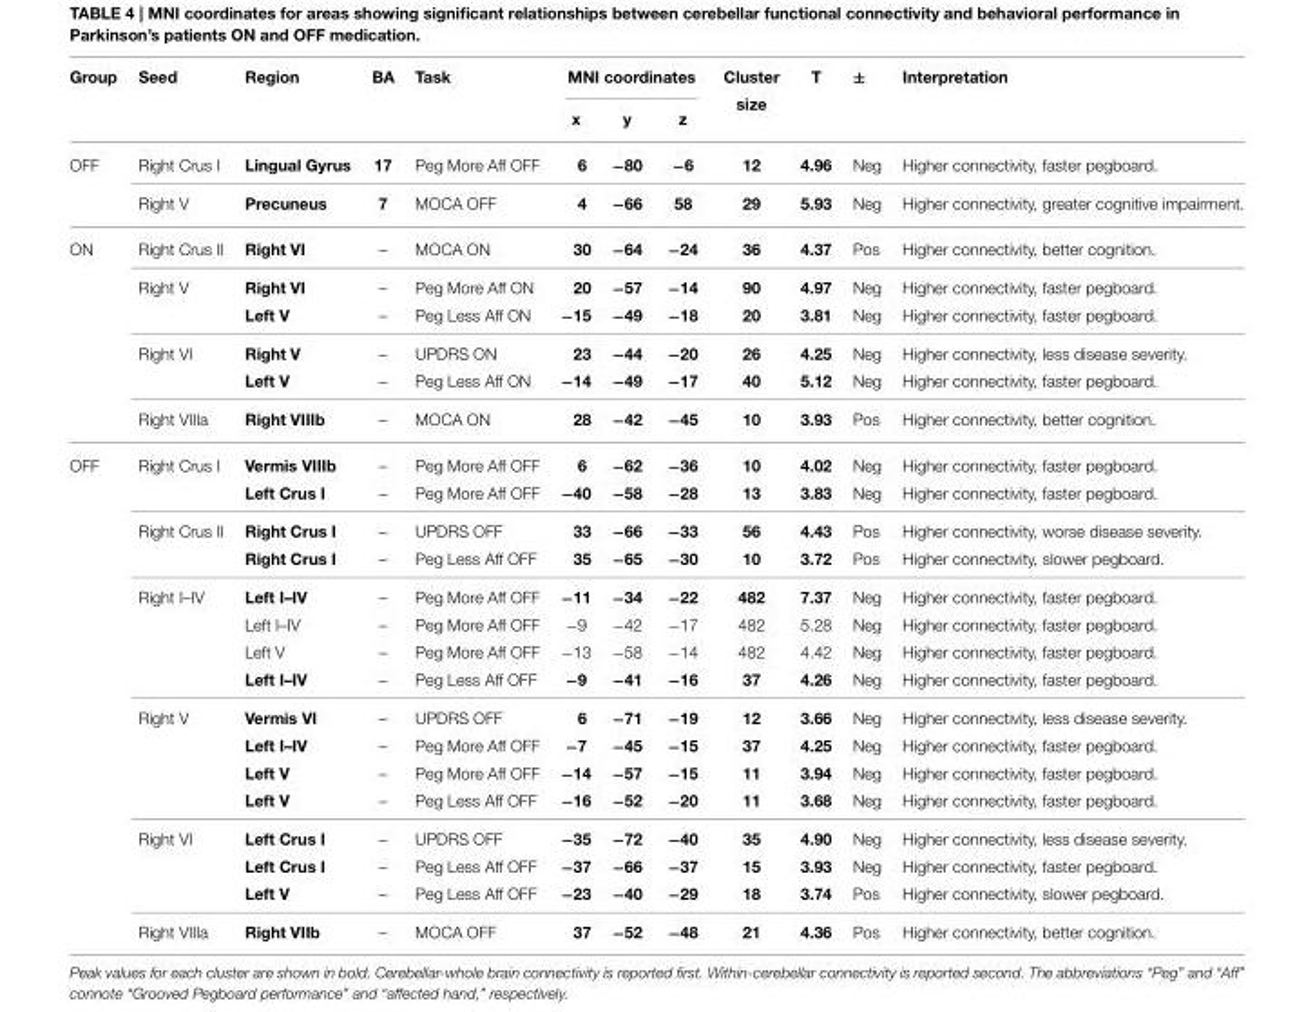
<table><thead><tr><td rowspan="2">Group</td><td rowspan="2">Seed</td><td rowspan="2">Region</td><td rowspan="2">BA</td><td rowspan="2">Task</td><td colspan="3">MNI coordinates</td><td rowspan="2">Cluster size</td><td rowspan="2">T</td><td rowspan="2">±</td><td rowspan="2">Interpretation</td></tr><tr><td>x</td><td>y</td><td>z</td></tr></thead><tbody><tr><td rowspan="2">OFF</td><td>Right Crus I</td><td>Lingual Gyrus</td><td>17</td><td>Peg More Aff OFF</td><td>6</td><td>−80</td><td>−6</td><td>12</td><td>4.96</td><td>Neg</td><td>Higher connectivity, faster pegboard.</td></tr><tr><td>Right V</td><td>Precuneus</td><td>7</td><td>MOCA OFF</td><td>4</td><td>−66</td><td>58</td><td>29</td><td>5.93</td><td>Neg</td><td>Higher connectivity, greater cognitive impairment.</td></tr><tr><td rowspan="6">ON</td><td>Right Crus II</td><td>Right VI</td><td>–</td><td>MOCA ON</td><td>30</td><td>−64</td><td>−24</td><td>36</td><td>4.37</td><td>Pos</td><td>Higher connectivity, better cognition.</td></tr><tr><td>Right V</td><td>Right VI</td><td>–</td><td>Peg More Aff ON</td><td>20</td><td>−57</td><td>−14</td><td>90</td><td>4.97</td><td>Neg</td><td>Higher connectivity, faster pegboard.</td></tr><tr><td></td><td>Left V</td><td>–</td><td>Peg Less Aff ON</td><td>−15</td><td>−49</td><td>−18</td><td>20</td><td>3.81</td><td>Neg</td><td>Higher connectivity, faster pegboard.</td></tr><tr><td>Right VI</td><td>Right V</td><td>–</td><td>UPDRS ON</td><td>23</td><td>−44</td><td>−20</td><td>26</td><td>4.25</td><td>Neg</td><td>Higher connectivity, less disease severity.</td></tr><tr><td></td><td>Left V</td><td>–</td><td>Peg Less Aff ON</td><td>−14</td><td>−49</td><td>−17</td><td>40</td><td>5.12</td><td>Neg</td><td>Higher connectivity, faster pegboard.</td></tr><tr><td>Right VIIIa</td><td>Right VIIIb</td><td>–</td><td>MOCA ON</td><td>28</td><td>−42</td><td>−45</td><td>10</td><td>3.93</td><td>Pos</td><td>Higher connectivity, better cognition.</td></tr><tr><td rowspan="16">OFF</td><td>Right Crus I</td><td>Vermis VIIIb</td><td>–</td><td>Peg More Aff OFF</td><td>6</td><td>−62</td><td>−36</td><td>10</td><td>4.02</td><td>Neg</td><td>Higher connectivity, faster pegboard.</td></tr><tr><td></td><td>Left Crus I</td><td>–</td><td>Peg More Aff OFF</td><td>−40</td><td>−58</td><td>−28</td><td>13</td><td>3.83</td><td>Neg</td><td>Higher connectivity, faster pegboard.</td></tr><tr><td>Right Crus II</td><td>Right Crus I</td><td>–</td><td>UPDRS OFF</td><td>33</td><td>−66</td><td>−33</td><td>56</td><td>4.43</td><td>Pos</td><td>Higher connectivity, worse disease severity.</td></tr><tr><td></td><td>Right Crus I</td><td>–</td><td>Peg Less Aff OFF</td><td>35</td><td>−65</td><td>−30</td><td>10</td><td>3.72</td><td>Pos</td><td>Higher connectivity, slower pegboard.</td></tr><tr><td>Right I–IV</td><td>Left I–IV</td><td>–</td><td>Peg More Aff OFF</td><td>−11</td><td>−34</td><td>−22</td><td>482</td><td>7.37</td><td>Neg</td><td>Higher connectivity, faster pegboard.</td></tr><tr><td></td><td>Left I–IV</td><td>–</td><td>Peg More Aff OFF</td><td>−9</td><td>−42</td><td>−17</td><td>482</td><td>5.28</td><td>Neg</td><td>Higher connectivity, faster pegboard.</td></tr><tr><td></td><td>Left V</td><td>–</td><td>Peg More Aff OFF</td><td>−13</td><td>−58</td><td>−14</td><td>482</td><td>4.42</td><td>Neg</td><td>Higher connectivity, faster pegboard.</td></tr><tr><td></td><td>Left I–IV</td><td>–</td><td>Peg Less Aff OFF</td><td>−9</td><td>−41</td><td>−16</td><td>37</td><td>4.26</td><td>Neg</td><td>Higher connectivity, faster pegboard.</td></tr><tr><td>Right V</td><td>Vermis VI</td><td>–</td><td>UPDRS OFF</td><td>6</td><td>−71</td><td>−19</td><td>12</td><td>3.66</td><td>Neg</td><td>Higher connectivity, less disease severity.</td></tr><tr><td></td><td>Left I–IV</td><td>–</td><td>Peg More Aff OFF</td><td>−7</td><td>−45</td><td>−15</td><td>37</td><td>4.25</td><td>Neg</td><td>Higher connectivity, faster pegboard.</td></tr><tr><td></td><td>Left V</td><td>–</td><td>Peg More Aff OFF</td><td>−14</td><td>−57</td><td>−15</td><td>11</td><td>3.94</td><td>Neg</td><td>Higher connectivity, faster pegboard.</td></tr><tr><td></td><td>Left V</td><td>–</td><td>Peg Less Aff OFF</td><td>−16</td><td>−52</td><td>−20</td><td>11</td><td>3.68</td><td>Neg</td><td>Higher connectivity, faster pegboard.</td></tr><tr><td>Right VI</td><td>Left Crus I</td><td>–</td><td>UPDRS OFF</td><td>−35</td><td>−72</td><td>−40</td><td>35</td><td>4.90</td><td>Neg</td><td>Higher connectivity, less disease severity.</td></tr><tr><td></td><td>Left Crus I</td><td>–</td><td>Peg Less Aff OFF</td><td>−37</td><td>−66</td><td>−37</td><td>15</td><td>3.93</td><td>Neg</td><td>Higher connectivity, faster pegboard.</td></tr><tr><td></td><td>Left V</td><td>–</td><td>Peg Less Aff OFF</td><td>−23</td><td>−40</td><td>−29</td><td>18</td><td>3.74</td><td>Pos</td><td>Higher connectivity, slower pegboard.</td></tr><tr><td>Right VIIIa</td><td>Right VIIb</td><td>–</td><td>MOCA OFF</td><td>37</td><td>−52</td><td>−48</td><td>21</td><td>4.36</td><td>Pos</td><td>Higher connectivity, better cognition.</td></tr></tbody></table>